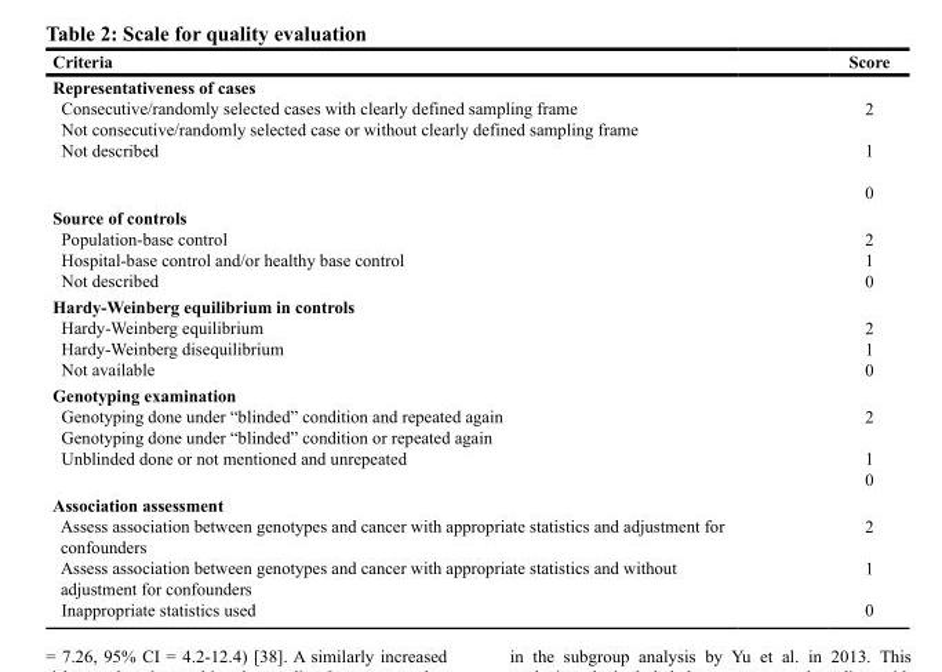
<table><thead><tr><td>Criteria</td><td>Score</td></tr></thead><tbody><tr><td>Representativeness of cases Consecutive/randomly selected cases with clearly defined sampling frame Not consecutive/randomly selected case or without clearly defined sampling frame Not described</td><td>2 1 0</td></tr><tr><td>Source of controls Population-base control Hospital-base control and/or healthy base control Not described</td><td>2 1 0</td></tr><tr><td>Hardy-Weinberg equilibrium in controls Hardy-Weinberg equilibrium Hardy-Weinberg disequilibrium Not available</td><td>2 1 0</td></tr><tr><td>Genotyping examination Genotyping done under “blinded” condition and repeated again Genotyping done under “blinded” condition or repeated again Unblinded done or not mentioned and unrepeated</td><td>2 1 0</td></tr><tr><td>Association assessment Assess association between genotypes and cancer with appropriate statistics and adjustment for confounders Assess association between genotypes and cancer with appropriate statistics and without adjustment for confounders Inappropriate statistics used</td><td>2 1 0</td></tr></tbody></table>